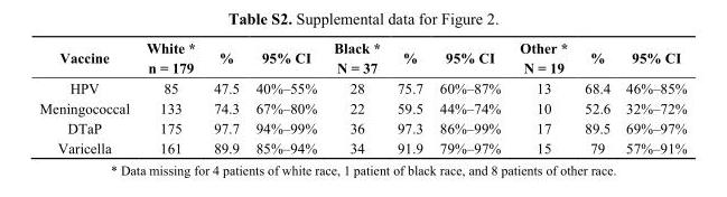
<table><thead><tr><td>Vaccine</td><td>White * n = 179</td><td>%</td><td>95% CI</td><td>Black * N = 37</td><td>%</td><td>95% CI</td><td>Other * N = 19</td><td>%</td><td>95% CI</td></tr></thead><tbody><tr><td>HPV</td><td>85</td><td>47.5</td><td>40%–55%</td><td>28</td><td>75.7</td><td>60%–87%</td><td>13</td><td>68.4</td><td>46%–85%</td></tr><tr><td>Meningococcal</td><td>133</td><td>74.3</td><td>67%–80%</td><td>22</td><td>59.5</td><td>44%–74%</td><td>10</td><td>52.6</td><td>32%–72%</td></tr><tr><td>DTaP</td><td>175</td><td>97.7</td><td>94%–99%</td><td>36</td><td>97.3</td><td>86%–99%</td><td>17</td><td>89.5</td><td>69%–97%</td></tr><tr><td>Varicella</td><td>161</td><td>89.9</td><td>85%–94%</td><td>34</td><td>91.9</td><td>79%–97%</td><td>15</td><td>79</td><td>57%–91%</td></tr></tbody></table>